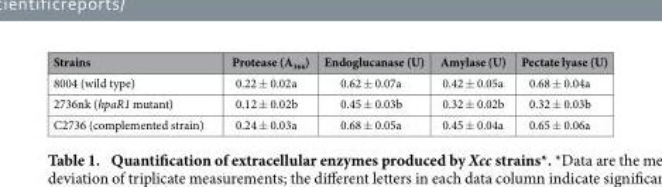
<table><thead><tr><td>Strains</td><td>Protease (A<sub>366</sub>)</td><td>Endoglucanase (U)</td><td>Amylase (U)</td><td>Pectate lyase (U)</td></tr></thead><tbody><tr><td>8004 (wild type)</td><td>0.22 ± 0.02a</td><td>0.62 ± 0.07a</td><td>0.42 ± 0.05a</td><td>0.68 ± 0.04a</td></tr><tr><td>2736nk (hpaR1 mutant)</td><td>0.12 ± 0.02b</td><td>0.45 ± 0.03b</td><td>0.32 ± 0.02b</td><td>0.32 ± 0.03b</td></tr><tr><td>C2736 (complemented strain)</td><td>0.24 ± 0.03a</td><td>0.68 ± 0.05a</td><td>0.45 ± 0.04a</td><td>0.65 ± 0.06a</td></tr></tbody></table>